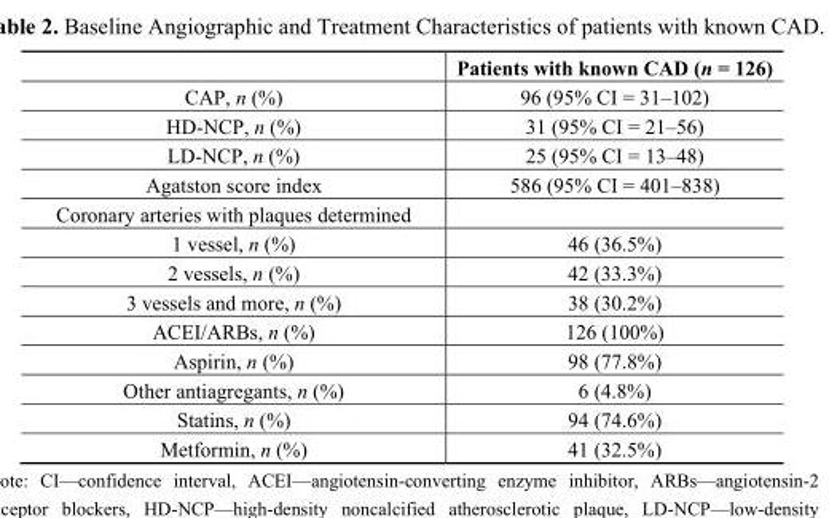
<table><thead><tr><td></td><td>Patients with known CAD (n = 126)</td></tr></thead><tbody><tr><td>CAP, n (%)</td><td>96 (95% CI = 31–102)</td></tr><tr><td>HD-NCP, n (%)</td><td>31 (95% CI = 21–56)</td></tr><tr><td>LD-NCP, n (%)</td><td>25 (95% CI = 13–48)</td></tr><tr><td>Agatston score index</td><td>586 (95% CI = 401–838)</td></tr><tr><td colspan="2">Coronary arteries with plaques determined</td></tr><tr><td>1 vessel, n (%)</td><td>46 (36.5%)</td></tr><tr><td>2 vessels, n (%)</td><td>42 (33.3%)</td></tr><tr><td>3 vessels and more, n (%)</td><td>38 (30.2%)</td></tr><tr><td>ACEI/ARBs, n (%)</td><td>126 (100%)</td></tr><tr><td>Aspirin, n (%)</td><td>98 (77.8%)</td></tr><tr><td>Other antiagregants, n (%)</td><td>6 (4.8%)</td></tr><tr><td>Statins, n (%)</td><td>94 (74.6%)</td></tr><tr><td>Metformin, n (%)</td><td>41 (32.5%)</td></tr></tbody></table>